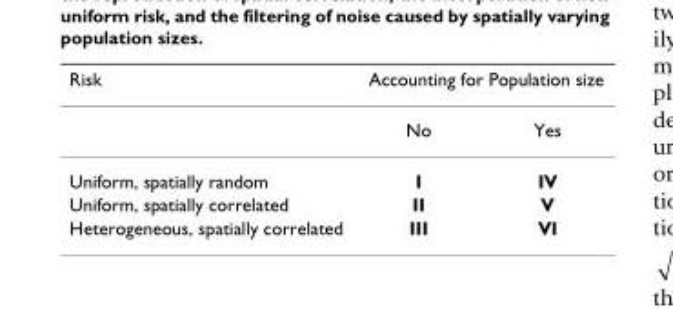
<table><thead><tr><td rowspan="2">Risk</td><td colspan="2">Accounting for Population size</td></tr><tr><td>No</td><td>Yes</td></tr></thead><tbody><tr><td>Uniform, spatially random</td><td>I</td><td>IV</td></tr><tr><td>Uniform, spatially correlated</td><td>II</td><td>V</td></tr><tr><td>Heterogeneous, spatially correlated</td><td>III</td><td>VI</td></tr></tbody></table>